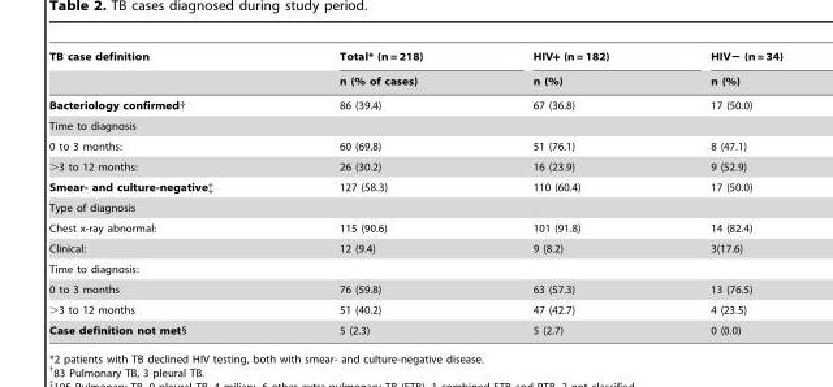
<table><thead><tr><td rowspan="2">TB case definition</td><td rowspan="2">Total* (n = 218) n (% of cases)</td><td rowspan="2">HIV+ (n = 182) n (%)</td><td rowspan="2">HIV− (n = 34) n (%)</td></tr><tr></tr></thead><tbody><tr><td>Bacteriology confirmed†</td><td>86 (39.4)</td><td>67 (36.8)</td><td>17 (50.0)</td></tr><tr><td colspan="4">Time to diagnosis</td></tr><tr><td>0 to 3 months:</td><td>60 (69.8)</td><td>51 (76.1)</td><td>8 (47.1)</td></tr><tr><td>&gt;3 to 12 months:</td><td>26 (30.2)</td><td>16 (23.9)</td><td>9 (52.9)</td></tr><tr><td>Smear- and culture-negative‡</td><td>127 (58.3)</td><td>110 (60.4)</td><td>17 (50.0)</td></tr><tr><td colspan="4">Type of diagnosis</td></tr><tr><td>Chest x-ray abnormal:</td><td>115 (90.6)</td><td>101 (91.8)</td><td>14 (82.4)</td></tr><tr><td>Clinical:</td><td>12 (9.4)</td><td>9 (8.2)</td><td>3(17.6)</td></tr><tr><td colspan="4">Time to diagnosis:</td></tr><tr><td>0 to 3 months</td><td>76 (59.8)</td><td>63 (57.3)</td><td>13 (76.5)</td></tr><tr><td>&gt;3 to 12 months</td><td>51 (40.2)</td><td>47 (42.7)</td><td>4 (23.5)</td></tr><tr><td>Case definition not met§</td><td>5 (2.3)</td><td>5 (2.7)</td><td>0 (0.0)</td></tr></tbody></table>